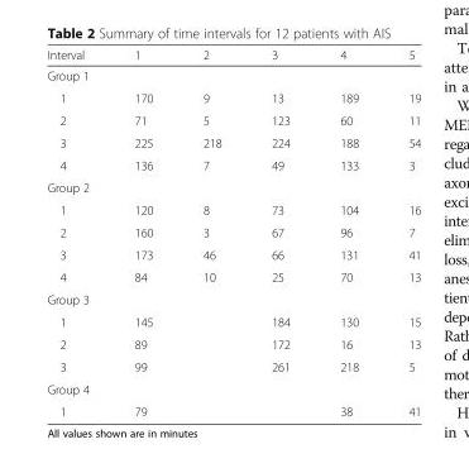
<table><thead><tr><td>Interval</td><td>1</td><td>2</td><td>3</td><td>4</td><td>5</td></tr></thead><tbody><tr><td colspan="6">Group 1</td></tr><tr><td>1</td><td>170</td><td>9</td><td>13</td><td>189</td><td>19</td></tr><tr><td>2</td><td>71</td><td>5</td><td>123</td><td>60</td><td>11</td></tr><tr><td>3</td><td>225</td><td>218</td><td>224</td><td>188</td><td>54</td></tr><tr><td>4</td><td>136</td><td>7</td><td>49</td><td>133</td><td>3</td></tr><tr><td colspan="6">Group 2</td></tr><tr><td>1</td><td>120</td><td>8</td><td>73</td><td>104</td><td>16</td></tr><tr><td>2</td><td>160</td><td>3</td><td>67</td><td>96</td><td>7</td></tr><tr><td>3</td><td>173</td><td>46</td><td>66</td><td>131</td><td>41</td></tr><tr><td>4</td><td>84</td><td>10</td><td>25</td><td>70</td><td>13</td></tr><tr><td colspan="6">Group 3</td></tr><tr><td>1</td><td>145</td><td></td><td>184</td><td>130</td><td>15</td></tr><tr><td>2</td><td>89</td><td></td><td>172</td><td>16</td><td>13</td></tr><tr><td>3</td><td>99</td><td></td><td>261</td><td>218</td><td>5</td></tr><tr><td colspan="6">Group 4</td></tr><tr><td>1</td><td>79</td><td></td><td></td><td>38</td><td>41</td></tr></tbody></table>